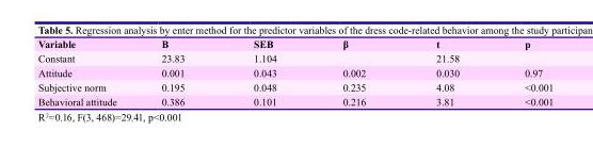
<table><thead><tr><td>Variable</td><td>B</td><td>SEB</td><td>β</td><td>t</td><td>p</td></tr></thead><tbody><tr><td>Constant</td><td>23.83</td><td>1.104</td><td></td><td>21.58</td><td></td></tr><tr><td>Attitude</td><td>0.001</td><td>0.043</td><td>0.002</td><td>0.030</td><td>0.97</td></tr><tr><td>Subjective norm</td><td>0.195</td><td>0.048</td><td>0.235</td><td>4.08</td><td>&lt;0.001</td></tr><tr><td>Behavioral attitude</td><td>0.386</td><td>0.101</td><td>0.216</td><td>3.81</td><td>&lt;0.001</td></tr></tbody></table>